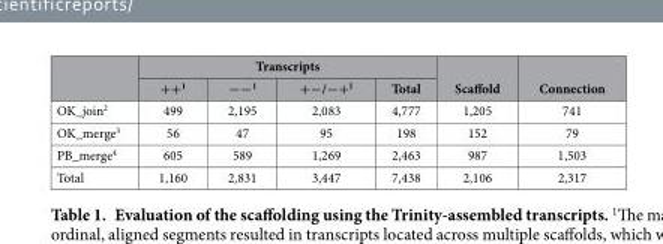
<table><thead><tr><td rowspan="2"></td><td colspan="4">Transcripts</td><td rowspan="2">Scaffold</td><td rowspan="2">Connection</td></tr><tr><td>++<sup>1</sup></td><td>−−1</td><td>+−/−+<sup>1</sup></td><td>Total</td></tr></thead><tbody><tr><td>OK_join<sup>2</sup></td><td>499</td><td>2,195</td><td>2,083</td><td>4,777</td><td>1,205</td><td>741</td></tr><tr><td>OK_merge<sup>3</sup></td><td>56</td><td>47</td><td>95</td><td>198</td><td>152</td><td>79</td></tr><tr><td>PB_merge<sup>4</sup></td><td>605</td><td>589</td><td>1,269</td><td>2,463</td><td>987</td><td>1,503</td></tr><tr><td>Total</td><td>1,160</td><td>2,831</td><td>3,447</td><td>7,438</td><td>2,106</td><td>2,317</td></tr></tbody></table>